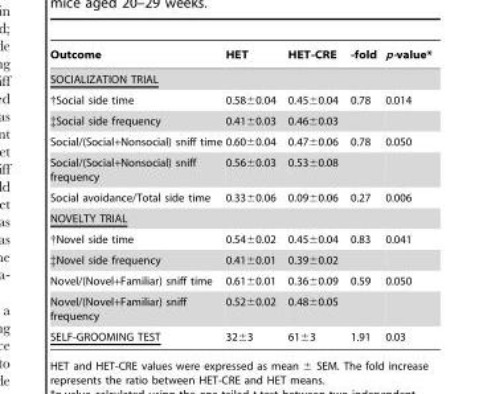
<table><thead><tr><td>Outcome</td><td>HET</td><td>HET-CRE</td><td>-fold</td><td>p-value*</td></tr></thead><tbody><tr><td colspan="5">SOCIALIZATION TRIAL</td></tr><tr><td>†Social side time</td><td>0.58±0.04</td><td>0.45±0.04</td><td>0.78</td><td>0.014</td></tr><tr><td>‡Social side frequency</td><td>0.41±0.03</td><td>0.46±0.03</td><td></td><td></td></tr><tr><td>Social/(Social+Nonsocial) sniff time</td><td>0.60±0.04</td><td>0.47±0.06</td><td>0.78</td><td>0.050</td></tr><tr><td>Social/(Social+Nonsocial) sniff frequency</td><td>0.56±0.03</td><td>0.53±0.08</td><td></td><td></td></tr><tr><td>Social avoidance/Total side time</td><td>0.33±0.06</td><td>0.09±0.06</td><td>0.27</td><td>0.006</td></tr><tr><td colspan="5">NOVELTY TRIAL</td></tr><tr><td>†Novel side time</td><td>0.54±0.02</td><td>0.45±0.04</td><td>0.83</td><td>0.041</td></tr><tr><td>‡Novel side frequency</td><td>0.41±0.01</td><td>0.39±0.02</td><td></td><td></td></tr><tr><td>Novel/(Novel+Familiar) sniff time</td><td>0.61±0.01</td><td>0.36±0.09</td><td>0.59</td><td>0.050</td></tr><tr><td>Novel/(Novel+Familiar) sniff frequency</td><td>0.52±0.02</td><td>0.48±0.05</td><td></td><td></td></tr><tr><td>SELF-GROOMING TEST</td><td>32±3</td><td>61±3</td><td>1.91</td><td>0.03</td></tr></tbody></table>